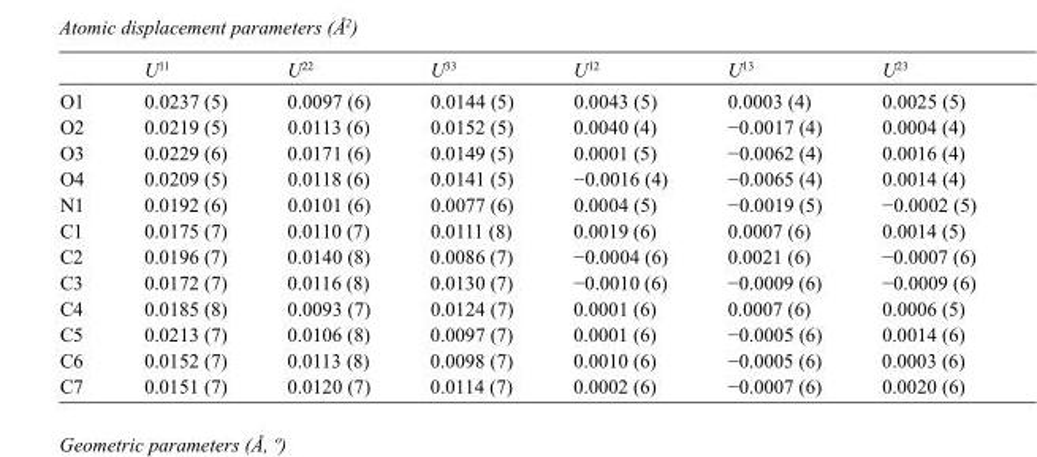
<table><thead><tr><td></td><td>U<sup>11</sup></td><td>U<sup>22</sup></td><td>U<sup>33</sup></td><td>U<sup>12</sup></td><td>U<sup>13</sup></td><td>U<sup>23</sup></td></tr></thead><tbody><tr><td>O1</td><td>0.0237 (5)</td><td>0.0097 (6)</td><td>0.0144 (5)</td><td>0.0043 (5)</td><td>0.0003 (4)</td><td>0.0025 (5)</td></tr><tr><td>O2</td><td>0.0219 (5)</td><td>0.0113 (6)</td><td>0.0152 (5)</td><td>0.0040 (4)</td><td>−0.0017 (4)</td><td>0.0004 (4)</td></tr><tr><td>O3</td><td>0.0229 (6)</td><td>0.0171 (6)</td><td>0.0149 (5)</td><td>0.0001 (5)</td><td>−0.0062 (4)</td><td>0.0016 (4)</td></tr><tr><td>O4</td><td>0.0209 (5)</td><td>0.0118 (6)</td><td>0.0141 (5)</td><td>−0.0016 (4)</td><td>−0.0065 (4)</td><td>0.0014 (4)</td></tr><tr><td>N1</td><td>0.0192 (6)</td><td>0.0101 (6)</td><td>0.0077 (6)</td><td>0.0004 (5)</td><td>−0.0019 (5)</td><td>−0.0002 (5)</td></tr><tr><td>C1</td><td>0.0175 (7)</td><td>0.0110 (7)</td><td>0.0111 (8)</td><td>0.0019 (6)</td><td>0.0007 (6)</td><td>0.0014 (5)</td></tr><tr><td>C2</td><td>0.0196 (7)</td><td>0.0140 (8)</td><td>0.0086 (7)</td><td>−0.0004 (6)</td><td>0.0021 (6)</td><td>−0.0007 (6)</td></tr><tr><td>C3</td><td>0.0172 (7)</td><td>0.0116 (8)</td><td>0.0130 (7)</td><td>−0.0010 (6)</td><td>−0.0009 (6)</td><td>−0.0009 (6)</td></tr><tr><td>C4</td><td>0.0185 (8)</td><td>0.0093 (7)</td><td>0.0124 (7)</td><td>0.0001 (6)</td><td>0.0007 (6)</td><td>0.0006 (5)</td></tr><tr><td>C5</td><td>0.0213 (7)</td><td>0.0106 (8)</td><td>0.0097 (7)</td><td>0.0001 (6)</td><td>−0.0005 (6)</td><td>0.0014 (6)</td></tr><tr><td>C6</td><td>0.0152 (7)</td><td>0.0113 (8)</td><td>0.0098 (7)</td><td>0.0010 (6)</td><td>−0.0005 (6)</td><td>0.0003 (6)</td></tr><tr><td>C7</td><td>0.0151 (7)</td><td>0.0120 (7)</td><td>0.0114 (7)</td><td>0.0002 (6)</td><td>−0.0007 (6)</td><td>0.0020 (6)</td></tr></tbody></table>